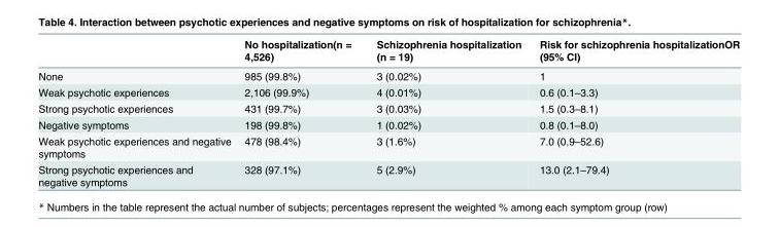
<table><thead><tr><td></td><td>No hospitalization(n = 4,526)</td><td>Schizophrenia hospitalization (n = 19)</td><td>Risk for schizophrenia hospitalizationOR (95% CI)</td></tr></thead><tbody><tr><td>None</td><td>985 (99.8%)</td><td>3 (0.02%)</td><td>1</td></tr><tr><td>Weak psychotic experiences</td><td>2,106 (99.9%)</td><td>4 (0.01%)</td><td>0.6 (0.1–3.3)</td></tr><tr><td>Strong psychotic experiences</td><td>431 (99.7%)</td><td>3 (0.03%)</td><td>1.5 (0.3–8.1)</td></tr><tr><td>Negative symptoms</td><td>198 (99.8%)</td><td>1 (0.02%)</td><td>0.8 (0.1–8.0)</td></tr><tr><td>Weak psychotic experiences and negative symptoms</td><td>478 (98.4%)</td><td>3 (1.6%)</td><td>7.0 (0.9–52.6)</td></tr><tr><td>Strong psychotic experiences and negative symptoms</td><td>328 (97.1%)</td><td>5 (2.9%)</td><td>13.0 (2.1–79.4)</td></tr></tbody></table>